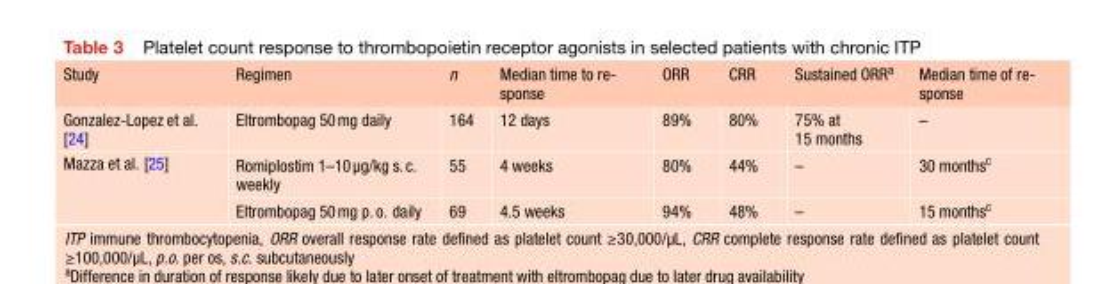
<table><thead><tr><td>Study</td><td>Regimen</td><td>n</td><td>Median time to re- sponse</td><td>ORR</td><td>CRR</td><td>Sustained ORR<sup>a</sup></td><td>Median time of re- sponse</td></tr></thead><tbody><tr><td>Gonzalez-Lopez et al. [24]</td><td>Eltrombopag 50mg daily</td><td>164</td><td>12 days</td><td>89%</td><td>80%</td><td>75% at 15 months</td><td>–</td></tr><tr><td rowspan="2">Mazza et al. [25]</td><td>Romiplostim 1–10µg/kg s.c. weekly</td><td>55</td><td>4 weeks</td><td>80%</td><td>44%</td><td>–</td><td>30 months<sup>c</sup></td></tr><tr><td>Eltrombopag 50mg p.o. daily</td><td>69</td><td>4.5 weeks</td><td>94%</td><td>48%</td><td>–</td><td>15 months<sup>c</sup></td></tr></tbody></table>